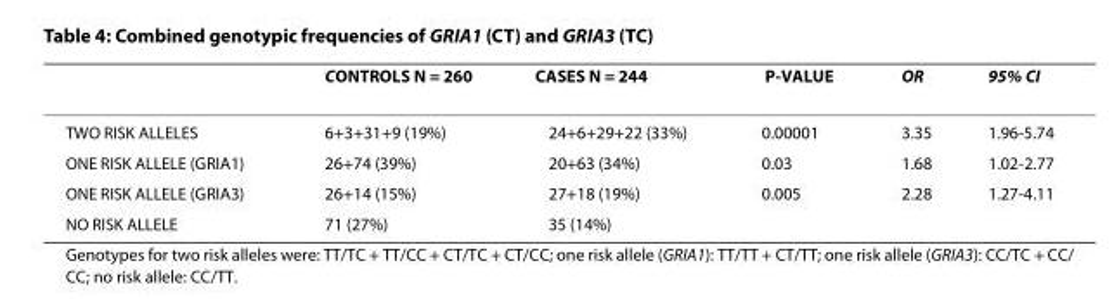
<table><thead><tr><td></td><td>CONTROLS N = 260</td><td>CASES N = 244</td><td>P-VALUE</td><td>OR</td><td>95% CI</td></tr></thead><tbody><tr><td>TWO RISK ALLELES</td><td>6+3+31+9 (19%)</td><td>24+6+29+22 (33%)</td><td>0.00001</td><td>3.35</td><td>1.96-5.74</td></tr><tr><td>ONE RISK ALLELE (GRIA1)</td><td>26+74 (39%)</td><td>20+63 (34%)</td><td>0.03</td><td>1.68</td><td>1.02-2.77</td></tr><tr><td>ONE RISK ALLELE (GRIA3)</td><td>26+14 (15%)</td><td>27+18 (19%)</td><td>0.005</td><td>2.28</td><td>1.27-4.11</td></tr><tr><td>NO RISK ALLELE</td><td>71 (27%)</td><td>35 (14%)</td><td></td><td></td><td></td></tr></tbody></table>